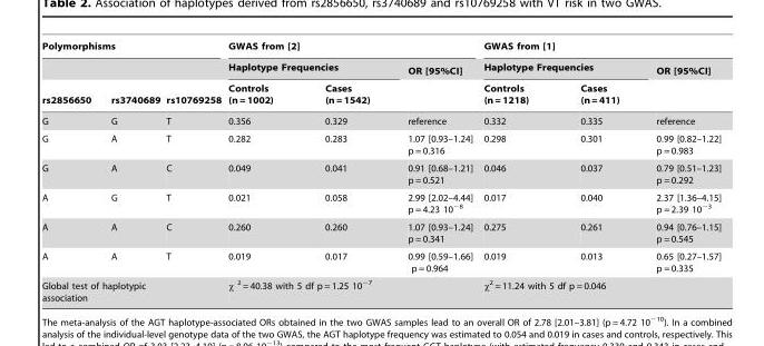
<table><thead><tr><td colspan="3">Polymorphisms</td><td colspan="3">GWAS from [2]</td><td colspan="3">GWAS from [1]</td></tr><tr><td rowspan="2">rs2856650</td><td rowspan="2">rs3740689</td><td rowspan="2">rs10769258</td><td colspan="2">Haplotype Frequencies</td><td rowspan="2">OR [95%CI]</td><td colspan="2">Haplotype Frequencies</td><td rowspan="2">OR [95%CI]</td></tr><tr><td>Controls (n = 1002)</td><td>Cases (n = 1542)</td><td>Controls (n = 1218)</td><td>Cases (n = 411)</td></tr></thead><tbody><tr><td>G</td><td>G</td><td>T</td><td>0.356</td><td>0.329</td><td>reference</td><td>0.332</td><td>0.335</td><td>reference</td></tr><tr><td>G</td><td>A</td><td>T</td><td>0.282</td><td>0.283</td><td>1.07 [0.93–1.24] p = 0.316</td><td>0.298</td><td>0.301</td><td>0.99 [0.82–1.22] p = 0.983</td></tr><tr><td>G</td><td>A</td><td>C</td><td>0.049</td><td>0.041</td><td>0.91 [0.68–1.21] p = 0.521</td><td>0.046</td><td>0.037</td><td>0.79 [0.51–1.23] p = 0.292</td></tr><tr><td>A</td><td>G</td><td>T</td><td>0.021</td><td>0.058</td><td>2.99 [2.02–4.44] p = 4.23 10<sup>−8</sup></td><td>0.017</td><td>0.040</td><td>2.37 [1.36–4.15] p = 2.39 10<sup>−3</sup></td></tr><tr><td>A</td><td>A</td><td>C</td><td>0.260</td><td>0.260</td><td>1.07 [0.93–1.24] p = 0.341</td><td>0.275</td><td>0.261</td><td>0.94 [0.76–1.15] p = 0.545</td></tr><tr><td>A</td><td>A</td><td>T</td><td>0.019</td><td>0.017</td><td>0.99 [0.59–1.66] p = 0.964</td><td>0.019</td><td>0.013</td><td>0.65 [0.27–1.57] p = 0.335</td></tr><tr><td colspan="3">Global test of haplotypic association</td><td colspan="3">χ <sup>2</sup> = 40.38 with 5 df p = 1.25 10<sup>−7</sup></td><td colspan="3">χ<sup>2</sup> = 11.24 with 5 df p = 0.046</td></tr></tbody></table>